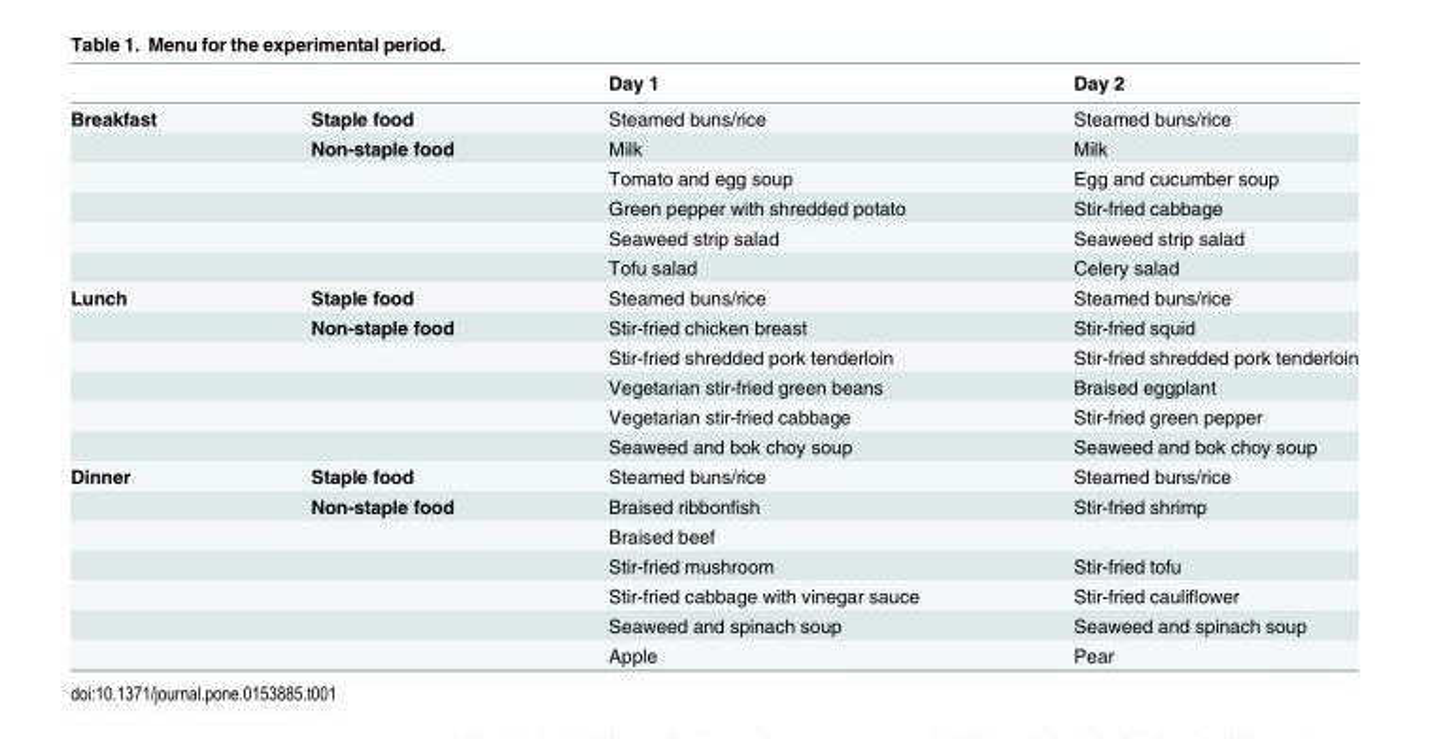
<table><thead><tr><td></td><td></td><td>Day 1</td><td>Day 2</td></tr></thead><tbody><tr><td rowspan="6">Breakfast</td><td>Staple food</td><td>Steamed buns/rice</td><td>Steamed buns/rice</td></tr><tr><td>Non-staple food</td><td>Milk</td><td>Milk</td></tr><tr><td></td><td>Tomato and egg soup</td><td>Egg and cucumber soup</td></tr><tr><td></td><td>Green pepper with shredded potato</td><td>Stir-fried cabbage</td></tr><tr><td></td><td>Seaweed strip salad</td><td>Seaweed strip salad</td></tr><tr><td></td><td>Tofu salad</td><td>Celery salad</td></tr><tr><td rowspan="6">Lunch</td><td>Staple food</td><td>Steamed buns/rice</td><td>Steamed buns/rice</td></tr><tr><td>Non-staple food</td><td>Stir-fried chicken breast</td><td>Stir-fried squid</td></tr><tr><td></td><td>Stir-fried shredded pork tenderloin</td><td>Stir-fried shredded pork tenderloin</td></tr><tr><td></td><td>Vegetarian stir-fried green beans</td><td>Braised eggplant</td></tr><tr><td></td><td>Vegetarian stir-fried cabbage</td><td>Stir-fried green pepper</td></tr><tr><td></td><td>Seaweed and bok choy soup</td><td>Seaweed and bok choy soup</td></tr><tr><td rowspan="7">Dinner</td><td>Staple food</td><td>Steamed buns/rice</td><td>Steamed buns/rice</td></tr><tr><td>Non-staple food</td><td>Braised ribbonfish</td><td>Stir-fried shrimp</td></tr><tr><td></td><td>Braised beef</td><td></td></tr><tr><td></td><td>Stir-fried mushroom</td><td>Stir-fried tofu</td></tr><tr><td></td><td>Stir-fried cabbage with vinegar sauce</td><td>Stir-fried cauliflower</td></tr><tr><td></td><td>Seaweed and spinach soup</td><td>Seaweed and spinach soup</td></tr><tr><td></td><td>Apple</td><td>Pear</td></tr></tbody></table>